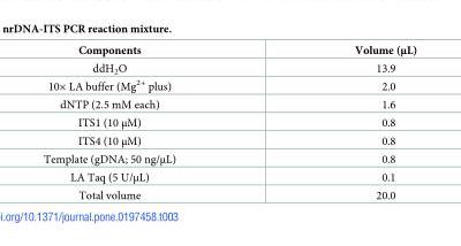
<table><thead><tr><td>Components</td><td>Volume (μL)</td></tr></thead><tbody><tr><td>ddH<sub>2</sub>O</td><td>13.9</td></tr><tr><td>10× LA buffer (Mg<sup>2+</sup> plus)</td><td>2.0</td></tr><tr><td>dNTP (2.5 mM each)</td><td>1.6</td></tr><tr><td>ITS1 (10 μM)</td><td>0.8</td></tr><tr><td>ITS4 (10 μM)</td><td>0.8</td></tr><tr><td>Template (gDNA; 50 ng/μL)</td><td>0.8</td></tr><tr><td>LA Taq (5 U/μL)</td><td>0.1</td></tr><tr><td>Total volume</td><td>20.0</td></tr></tbody></table>